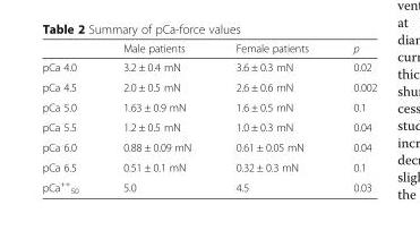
<table><thead><tr><td></td><td>Male patients</td><td>Female patients</td><td>p</td></tr></thead><tbody><tr><td>pCa 4.0</td><td>3.2 ± 0.4 mN</td><td>3.6 ± 0.3 mN</td><td>0.02</td></tr><tr><td>pCa 4.5</td><td>2.0 ± 0.5 mN</td><td>2.6 ± 0.6 mN</td><td>0.002</td></tr><tr><td>pCa 5.0</td><td>1.63 ± 0.9 mN</td><td>1.6 ± 0.5 mN</td><td>0.1</td></tr><tr><td>pCa 5.5</td><td>1.2 ± 0.5 mN</td><td>1.0 ± 0.3 mN</td><td>0.04</td></tr><tr><td>pCa 6.0</td><td>0.88 ± 0.09 mN</td><td>0.61 ± 0.05 mN</td><td>0.04</td></tr><tr><td>pCa 6.5</td><td>0.51 ± 0.1 mN</td><td>0.32 ± 0.3 mN</td><td>0.1</td></tr><tr><td>pCa<sup>++</sup> <sub>50</sub></td><td>5.0</td><td>4.5</td><td>0.03</td></tr></tbody></table>